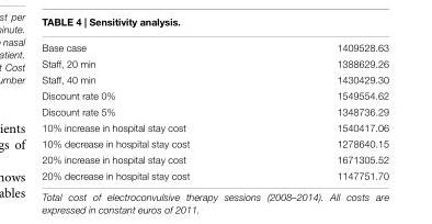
<table><tbody><tr><td>Base case</td><td>1409528.63</td></tr><tr><td>Staff, 20 min</td><td>1388629.26</td></tr><tr><td>Staff, 40 min</td><td>1430429.30</td></tr><tr><td>Discount rate 0%</td><td>1549554.62</td></tr><tr><td>Discount rate 5%</td><td>1348736.29</td></tr><tr><td>10% increase in hospital stay cost</td><td>1540417.06</td></tr><tr><td>10% decrease in hospital stay cost</td><td>1278640.15</td></tr><tr><td>20% increase in hospital stay cost</td><td>1671305.52</td></tr><tr><td>20% decrease in hospital stay cost</td><td>1147751.70</td></tr></tbody></table>